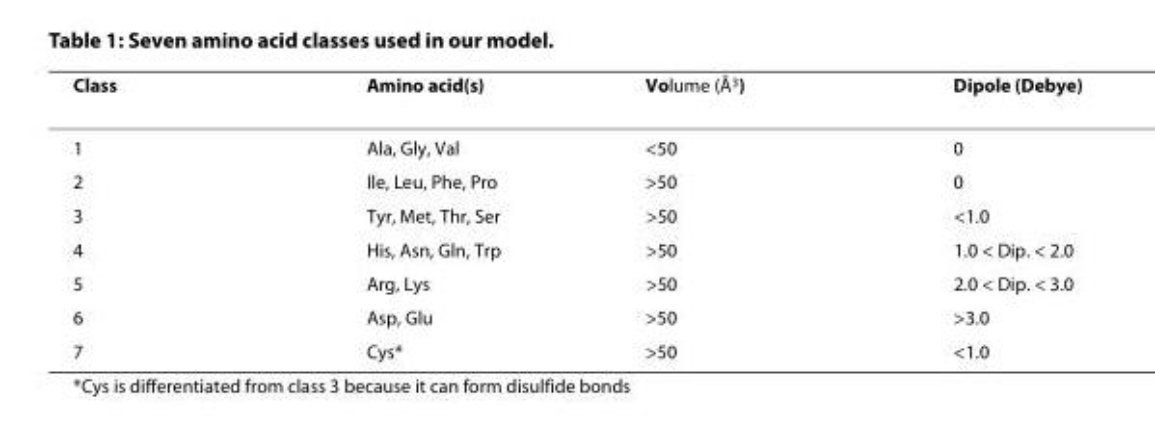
<table><thead><tr><td>Class</td><td>Amino acid(s)</td><td>Volume (Å<sup>3</sup>)</td><td>Dipole (Debye)</td></tr></thead><tbody><tr><td>1</td><td>Ala, Gly, Val</td><td>&lt;50</td><td>0</td></tr><tr><td>2</td><td>Ile, Leu, Phe, Pro</td><td>&gt;50</td><td>0</td></tr><tr><td>3</td><td>Tyr, Met, Thr, Ser</td><td>&gt;50</td><td>&lt;1.0</td></tr><tr><td>4</td><td>His, Asn, Gln, Trp</td><td>&gt;50</td><td>1.0 &lt; Dip. &lt; 2.0</td></tr><tr><td>5</td><td>Arg, Lys</td><td>&gt;50</td><td>2.0 &lt; Dip. &lt; 3.0</td></tr><tr><td>6</td><td>Asp, Glu</td><td>&gt;50</td><td>&gt;3.0</td></tr><tr><td>7</td><td>Cys*</td><td>&gt;50</td><td>&lt;1.0</td></tr></tbody></table>